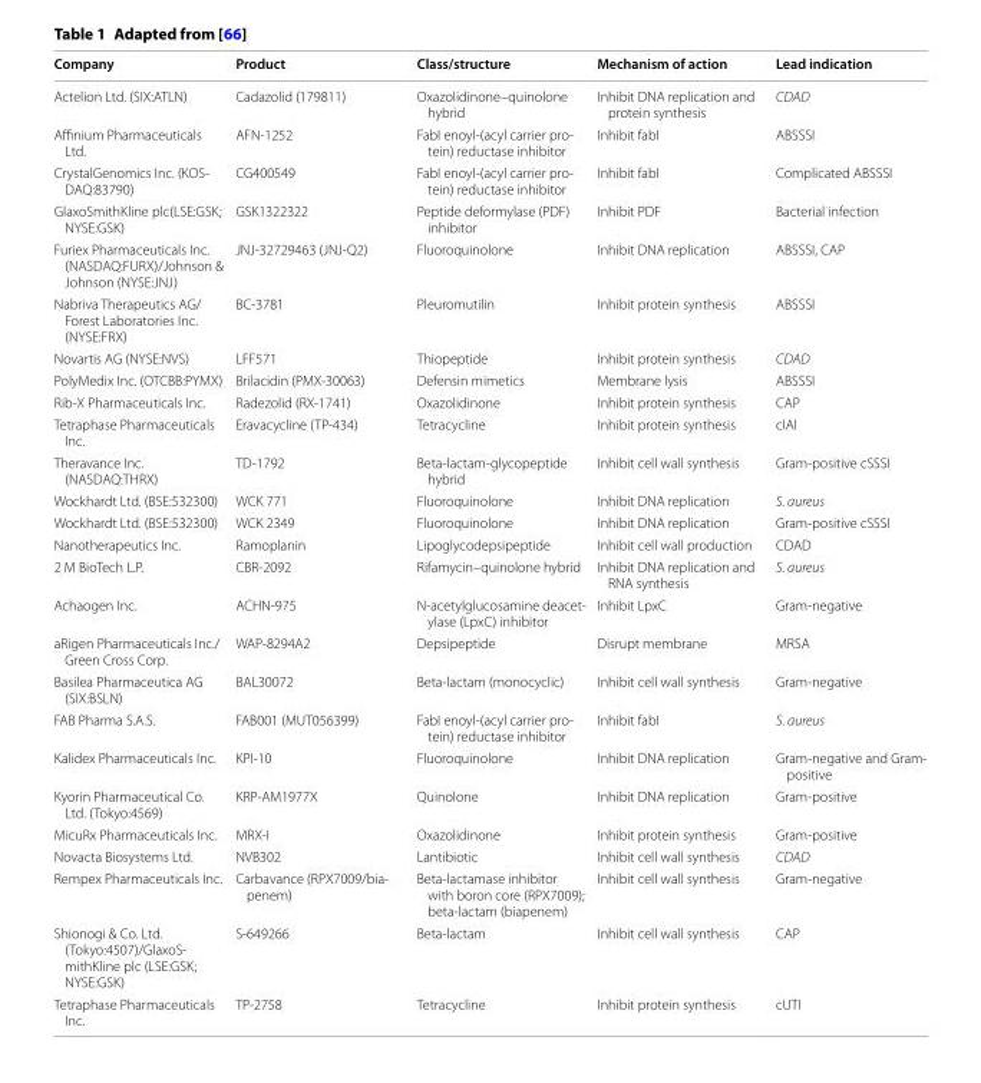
<table><thead><tr><td>Company</td><td>Product</td><td>Class/structure</td><td>Mechanism of action</td><td>Lead indication</td></tr></thead><tbody><tr><td>Actelion Ltd. (SIX:ATLN)</td><td>Cadazolid (179811)</td><td>Oxazolidinone–quinolone hybrid</td><td>Inhibit DNA replication and protein synthesis</td><td>CDAD</td></tr><tr><td>Affinium Pharmaceuticals Ltd.</td><td>AFN‑1252</td><td>FabI enoyl‑(acyl carrier pro‑ tein) reductase inhibitor</td><td>Inhibit fabI</td><td>ABSSSI</td></tr><tr><td>CrystalGenomics Inc. (KOS‑ DAQ:83790)</td><td>CG400549</td><td>FabI enoyl‑(acyl carrier pro‑ tein) reductase inhibitor</td><td>Inhibit fabI</td><td>Complicated ABSSSI</td></tr><tr><td>GlaxoSmithKline plc(LSE:GSK; NYSE:GSK)</td><td>GSK1322322</td><td>Peptide deformylase (PDF) inhibitor</td><td>Inhibit PDF</td><td>Bacterial infection</td></tr><tr><td>Furiex Pharmaceuticals Inc. (NASDAQ:FURX)/Johnson &amp; Johnson (NYSE:JNJ)</td><td>JNJ‑32729463 (JNJ‑Q2)</td><td>Fluoroquinolone</td><td>Inhibit DNA replication</td><td>ABSSSI, CAP</td></tr><tr><td>Nabriva Therapeutics AG/ Forest Laboratories Inc. (NYSE:FRX)</td><td>BC‑3781</td><td>Pleuromutilin</td><td>Inhibit protein synthesis</td><td>ABSSSI</td></tr><tr><td>Novartis AG (NYSE:NVS)</td><td>LFF571</td><td>Thiopeptide</td><td>Inhibit protein synthesis</td><td>CDAD</td></tr><tr><td>PolyMedix Inc. (OTCBB:PYMX)</td><td>Brilacidin (PMX‑30063)</td><td>Defensin mimetics</td><td>Membrane lysis</td><td>ABSSSI</td></tr><tr><td>Rib‑X Pharmaceuticals Inc.</td><td>Radezolid (RX‑1741)</td><td>Oxazolidinone</td><td>Inhibit protein synthesis</td><td>CAP</td></tr><tr><td>Tetraphase Pharmaceuticals Inc.</td><td>Eravacycline (TP‑434)</td><td>Tetracycline</td><td>Inhibit protein synthesis</td><td>cIAI</td></tr><tr><td>Theravance Inc. (NASDAQ:THRX)</td><td>TD‑1792</td><td>Beta‑lactam‑glycopeptide hybrid</td><td>Inhibit cell wall synthesis</td><td>Gram‑positive cSSSI</td></tr><tr><td>Wockhardt Ltd. (BSE:532300)</td><td>WCK 771</td><td>Fluoroquinolone</td><td>Inhibit DNA replication</td><td>S. aureus</td></tr><tr><td>Wockhardt Ltd. (BSE:532300)</td><td>WCK 2349</td><td>Fluoroquinolone</td><td>Inhibit DNA replication</td><td>Gram‑positive cSSSI</td></tr><tr><td>Nanotherapeutics Inc.</td><td>Ramoplanin</td><td>Lipoglycodepsipeptide</td><td>Inhibit cell wall production</td><td>CDAD</td></tr><tr><td>2 M BioTech L.P.</td><td>CBR‑2092</td><td>Rifamycin–quinolone hybrid</td><td>Inhibit DNA replication and RNA synthesis</td><td>S. aureus</td></tr><tr><td>Achaogen Inc.</td><td>ACHN‑975</td><td>N‑acetylglucosamine deacet‑ ylase (LpxC) inhibitor</td><td>Inhibit LpxC</td><td>Gram‑negative</td></tr><tr><td>aRigen Pharmaceuticals Inc./ Green Cross Corp.</td><td>WAP‑8294A2</td><td>Depsipeptide</td><td>Disrupt membrane</td><td>MRSA</td></tr><tr><td>Basilea Pharmaceutica AG (SIX:BSLN)</td><td>BAL30072</td><td>Beta‑lactam (monocyclic)</td><td>Inhibit cell wall synthesis</td><td>Gram‑negative</td></tr><tr><td>FAB Pharma S.A.S.</td><td>FAB001 (MUT056399)</td><td>FabI enoyl‑(acyl carrier pro‑ tein) reductase inhibitor</td><td>Inhibit fabI</td><td>S. aureus</td></tr><tr><td>Kalidex Pharmaceuticals Inc.</td><td>KPI‑10</td><td>Fluoroquinolone</td><td>Inhibit DNA replication</td><td>Gram‑negative and Gram‑ positive</td></tr><tr><td>Kyorin Pharmaceutical Co. Ltd. (Tokyo:4569)</td><td>KRP‑AM1977X</td><td>Quinolone</td><td>Inhibit DNA replication</td><td>Gram‑positive</td></tr><tr><td>MicuRx Pharmaceuticals Inc.</td><td>MRX‑I</td><td>Oxazolidinone</td><td>Inhibit protein synthesis</td><td>Gram‑positive</td></tr><tr><td>Novacta Biosystems Ltd.</td><td>NVB302</td><td>Lantibiotic</td><td>Inhibit cell wall synthesis</td><td>CDAD</td></tr><tr><td>Rempex Pharmaceuticals Inc.</td><td>Carbavance (RPX7009/bia‑ penem)</td><td>Beta‑lactamase inhibitor with boron core (RPX7009); beta‑lactam (biapenem)</td><td>Inhibit cell wall synthesis</td><td>Gram‑negative</td></tr><tr><td>Shionogi &amp; Co. Ltd. (Tokyo:4507)/GlaxoS‑ mithKline plc (LSE:GSK; NYSE:GSK)</td><td>S‑649266</td><td>Beta‑lactam</td><td>Inhibit cell wall synthesis</td><td>CAP</td></tr><tr><td>Tetraphase Pharmaceuticals Inc.</td><td>TP‑2758</td><td>Tetracycline</td><td>Inhibit protein synthesis</td><td>cUTI</td></tr></tbody></table>